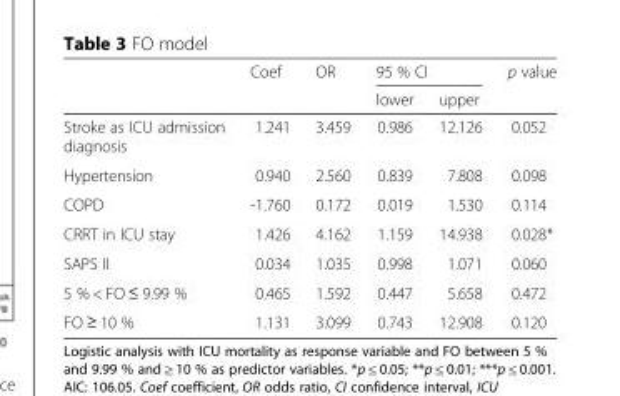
<table><thead><tr><td rowspan="2"></td><td rowspan="2">Coef</td><td rowspan="2">OR</td><td colspan="2">95 % CI</td><td rowspan="2">p value</td></tr><tr><td>lower</td><td>upper</td></tr></thead><tbody><tr><td>Stroke as ICU admission diagnosis</td><td>1.241</td><td>3.459</td><td>0.986</td><td>12.126</td><td>0.052</td></tr><tr><td>Hypertension</td><td>0.940</td><td>2.560</td><td>0.839</td><td>7.808</td><td>0.098</td></tr><tr><td>COPD</td><td>-1.760</td><td>0.172</td><td>0.019</td><td>1.530</td><td>0.114</td></tr><tr><td>CRRT in ICU stay</td><td>1.426</td><td>4.162</td><td>1.159</td><td>14.938</td><td>0.028*</td></tr><tr><td>SAPS II</td><td>0.034</td><td>1.035</td><td>0.998</td><td>1.071</td><td>0.060</td></tr><tr><td>5 % &lt; FO ≤ 9.99 %</td><td>0.465</td><td>1.592</td><td>0.447</td><td>5.658</td><td>0.472</td></tr><tr><td>FO ≥ 10 %</td><td>1.131</td><td>3.099</td><td>0.743</td><td>12.908</td><td>0.120</td></tr></tbody></table>